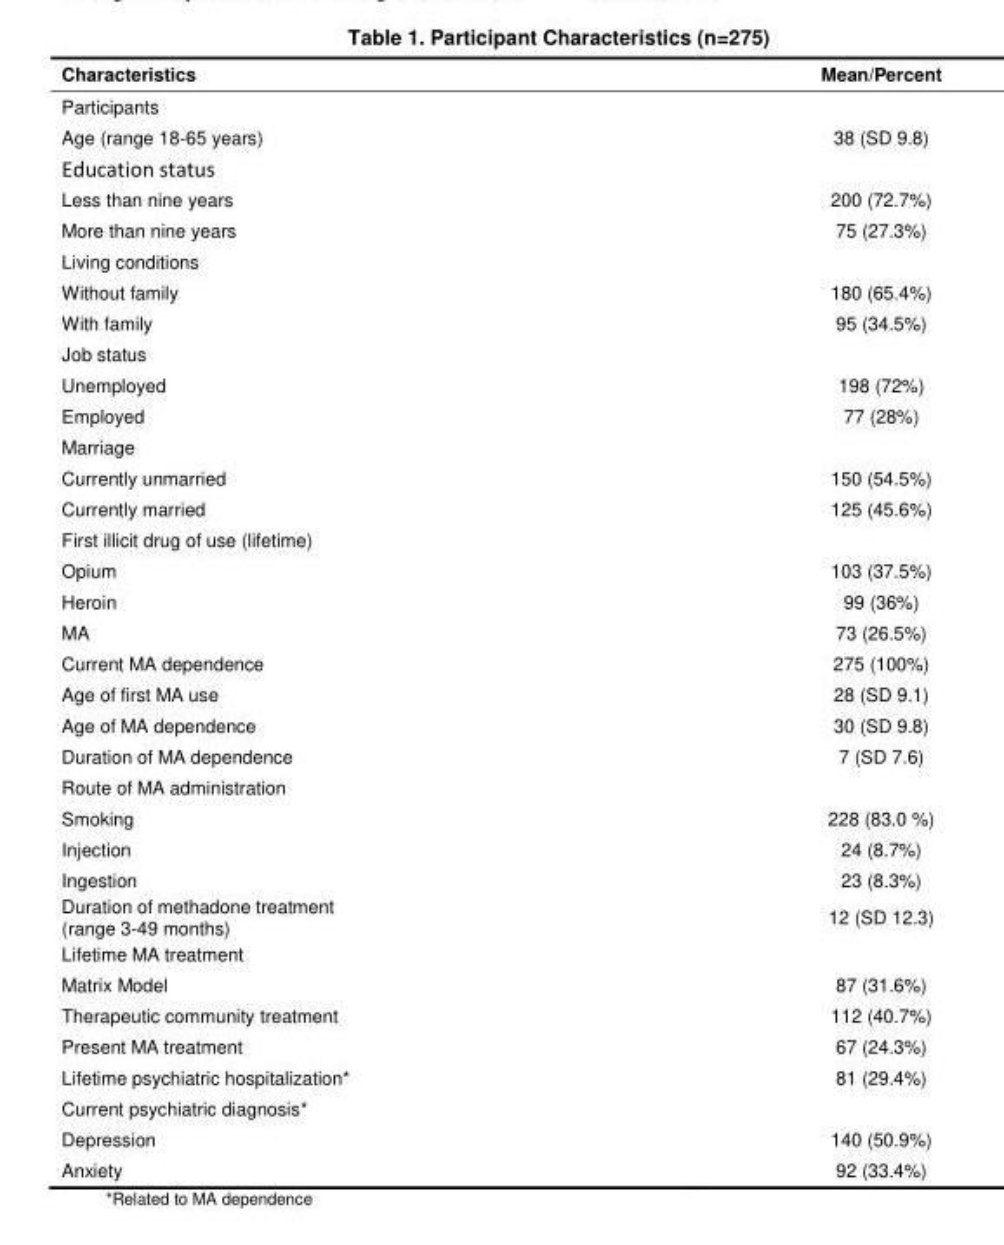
<table><thead><tr><td>Characteristics</td><td>Mean/Percent</td></tr></thead><tbody><tr><td colspan="2">Participants</td></tr><tr><td>Age (range 18-65 years)</td><td>38 (SD 9.8)</td></tr><tr><td colspan="2">Education status</td></tr><tr><td>Less than nine years</td><td>200 (72.7%)</td></tr><tr><td>More than nine years</td><td>75 (27.3%)</td></tr><tr><td colspan="2">Living conditions</td></tr><tr><td>Without family</td><td>180 (65.4%)</td></tr><tr><td>With family</td><td>95 (34.5%)</td></tr><tr><td colspan="2">Job status</td></tr><tr><td>Unemployed</td><td>198 (72%)</td></tr><tr><td>Employed</td><td>77 (28%)</td></tr><tr><td colspan="2">Marriage</td></tr><tr><td>Currently unmarried</td><td>150 (54.5%)</td></tr><tr><td>Currently married</td><td>125 (45.6%)</td></tr><tr><td colspan="2">First illicit drug of use (lifetime)</td></tr><tr><td>Opium</td><td>103 (37.5%)</td></tr><tr><td>Heroin</td><td>99 (36%)</td></tr><tr><td>MA</td><td>73 (26.5%)</td></tr><tr><td>Current MA dependence</td><td>275 (100%)</td></tr><tr><td>Age of first MA use</td><td>28 (SD 9.1)</td></tr><tr><td>Age of MA dependence</td><td>30 (SD 9.8)</td></tr><tr><td>Duration of MA dependence</td><td>7 (SD 7.6)</td></tr><tr><td colspan="2">Route of MA administration</td></tr><tr><td>Smoking</td><td>228 (83.0 %)</td></tr><tr><td>Injection</td><td>24 (8.7%)</td></tr><tr><td>Ingestion</td><td>23 (8.3%)</td></tr><tr><td>Duration of methadone treatment (range 3-49 months)</td><td>12 (SD 12.3)</td></tr><tr><td colspan="2">Lifetime MA treatment</td></tr><tr><td>Matrix Model</td><td>87 (31.6%)</td></tr><tr><td>Therapeutic community treatment</td><td>112 (40.7%)</td></tr><tr><td>Present MA treatment</td><td>67 (24.3%)</td></tr><tr><td>Lifetime psychiatric hospitalization*</td><td>81 (29.4%)</td></tr><tr><td colspan="2">Current psychiatric diagnosis*</td></tr><tr><td>Depression</td><td>140 (50.9%)</td></tr><tr><td>Anxiety</td><td>92 (33.4%)</td></tr></tbody></table>